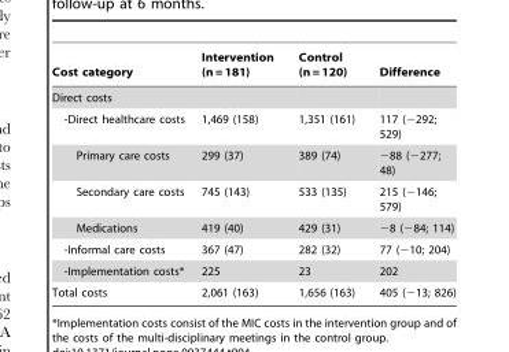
<table><thead><tr><td>Cost category</td><td>Intervention (n = 181)</td><td>Control (n = 120)</td><td>Difference</td></tr></thead><tbody><tr><td colspan="4">Direct costs</td></tr><tr><td>-Direct healthcare costs</td><td>1,469 (158)</td><td>1,351 (161)</td><td>117 (−292; 529)</td></tr><tr><td>Primary care costs</td><td>299 (37)</td><td>389 (74)</td><td>−88 (−277; 48)</td></tr><tr><td>Secondary care costs</td><td>745 (143)</td><td>533 (135)</td><td>215 (−146; 579)</td></tr><tr><td>Medications</td><td>419 (40)</td><td>429 (31)</td><td>−8 (−84; 114)</td></tr><tr><td>-Informal care costs</td><td>367 (47)</td><td>282 (32)</td><td>77 (−10; 204)</td></tr><tr><td>-Implementation costs*</td><td>225</td><td>23</td><td>202</td></tr><tr><td>Total costs</td><td>2,061 (163)</td><td>1,656 (163)</td><td>405 (−13; 826)</td></tr></tbody></table>